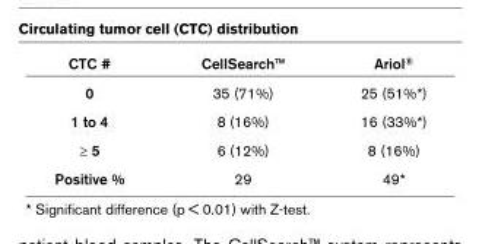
<table><thead><tr><td>CTC #</td><td>CellSearch™</td><td>Ariol<sup>®</sup></td></tr></thead><tbody><tr><td>0</td><td>35 (71%)</td><td>25 (51%*)</td></tr><tr><td>1 to 4</td><td>8 (16%)</td><td>16 (33%*)</td></tr><tr><td>≥ 5</td><td>6 (12%)</td><td>8 (16%)</td></tr><tr><td>Positive %</td><td>29</td><td>49*</td></tr></tbody></table>